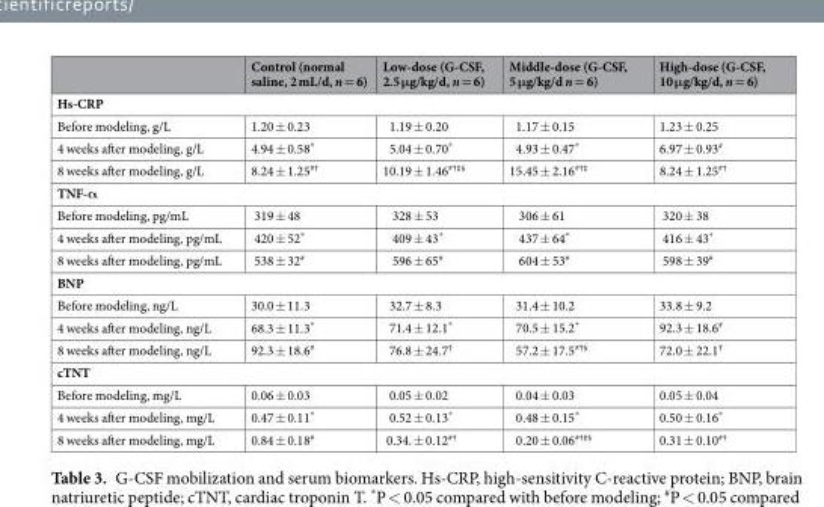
<table><thead><tr><td></td><td>Control (normal saline, 2 mL/d, n = 6)</td><td>Low-dose (G-CSF, 2.5 μg/kg/d, n = 6)</td><td>Middle-dose (G-CSF, 5 μg/kg/d n = 6)</td><td>High-dose (G-CSF, 10 μg/kg/d, n = 6)</td></tr></thead><tbody><tr><td colspan="5">Hs-CRP</td></tr><tr><td>Before modeling, g/L</td><td>1.20 ± 0.23</td><td>1.19 ± 0.20</td><td>1.17 ± 0.15</td><td>1.23 ± 0.25</td></tr><tr><td>4 weeks after modeling, g/L</td><td>4.94 ± 0.58*</td><td>5.04 ± 0.70*</td><td>4.93 ± 0.47*</td><td>6.97 ± 0.93<sup>#</sup></td></tr><tr><td>8 weeks after modeling, g/L</td><td>8.24 ± 1.25<sup>#†</sup></td><td>10.19 ± 1.46<sup>#†‡§</sup></td><td>15.45 ± 2.16<sup>#†‡</sup></td><td>8.24 ± 1.25<sup>#†</sup></td></tr><tr><td colspan="5">TNF-α</td></tr><tr><td>Before modeling, pg/mL</td><td>319 ± 48</td><td>328 ± 53</td><td>306 ± 61</td><td>320 ± 38</td></tr><tr><td>4 weeks after modeling, pg/mL</td><td>420 ± 52*</td><td>409 ± 43*</td><td>437 ± 64*</td><td>416 ± 43*</td></tr><tr><td>8 weeks after modeling, pg/mL</td><td>538 ± 32<sup>#</sup></td><td>596 ± 65<sup>#</sup></td><td>604 ± 53<sup>#</sup></td><td>598 ± 39<sup>#</sup></td></tr><tr><td colspan="5">BNP</td></tr><tr><td>Before modeling, ng/L</td><td>30.0 ± 11.3</td><td>32.7 ± 8.3</td><td>31.4 ± 10.2</td><td>33.8 ± 9.2</td></tr><tr><td>4 weeks after modeling, ng/L</td><td>68.3 ± 11.3*</td><td>71.4 ± 12.1*</td><td>70.5 ± 15.2*</td><td>92.3 ± 18.6<sup>#</sup></td></tr><tr><td>8 weeks after modeling, ng/L</td><td>92.3 ± 18.6<sup>#</sup></td><td>76.8 ± 24.7<sup>†</sup></td><td>57.2 ± 17.5<sup>#†§</sup></td><td>72.0 ± 22.1<sup>†</sup></td></tr><tr><td colspan="5">cTNT</td></tr><tr><td>Before modeling, mg/L</td><td>0.06 ± 0.03</td><td>0.05 ± 0.02</td><td>0.04 ± 0.03</td><td>0.05 ± 0.04</td></tr><tr><td>4 weeks after modeling, mg/L</td><td>0.47 ± 0.11*</td><td>0.52 ± 0.13*</td><td>0.48 ± 0.15*</td><td>0.50 ± 0.16*</td></tr><tr><td>8 weeks after modeling, mg/L</td><td>0.84 ± 0.18<sup>#</sup></td><td>0.34. ± 0.12<sup>#†</sup></td><td>0.20 ± 0.06<sup>#†‡§</sup></td><td>0.31 ± 0.10<sup>#†</sup></td></tr></tbody></table>